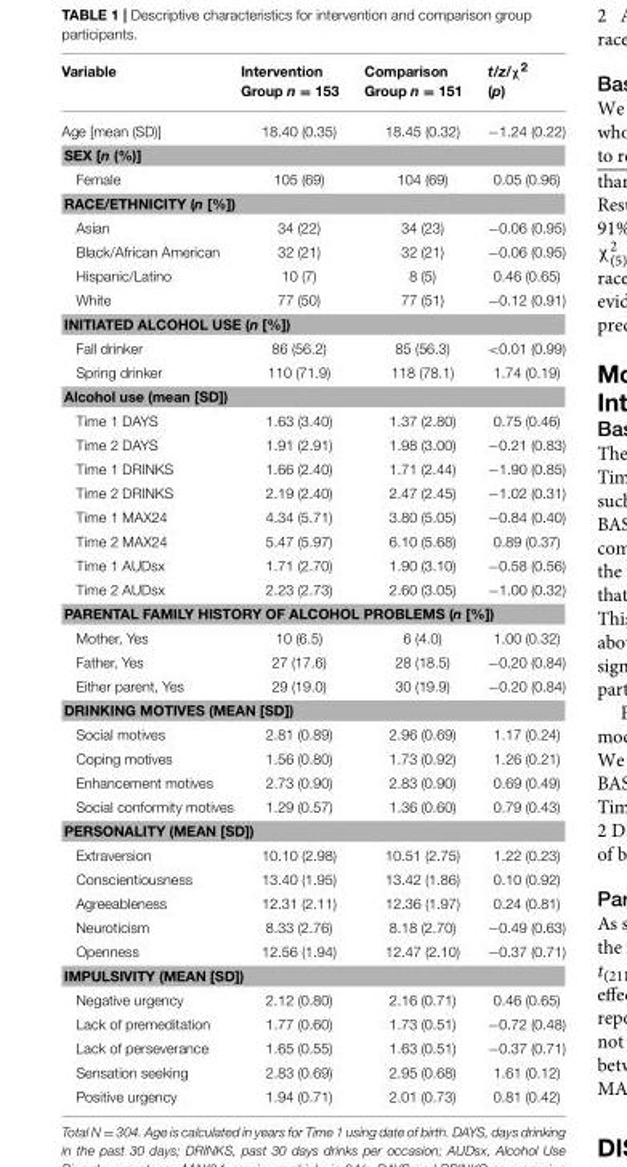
<table><thead><tr><td>Variable</td><td>Intervention Group n = 153</td><td>Comparison Group n = 151</td><td>t/z/χ<sup>2</sup> (p)</td></tr></thead><tbody><tr><td>Age [mean (SD)]</td><td>18.40 (0.35)</td><td>18.45 (0.32)</td><td>−1.24 (0.22)</td></tr><tr><td colspan="4">SEX [n (%)]</td></tr><tr><td>Female</td><td>105 (69)</td><td>104 (69)</td><td>0.05 (0.96)</td></tr><tr><td colspan="4">RACE/ETHNICITY (n [%])</td></tr><tr><td>Asian</td><td>34 (22)</td><td>34 (23)</td><td>−0.06 (0.95)</td></tr><tr><td>Black/African American</td><td>32 (21)</td><td>32 (21)</td><td>−0.06 (0.95)</td></tr><tr><td>Hispanic/Latino</td><td>10 (7)</td><td>8 (5)</td><td>0.46 (0.65)</td></tr><tr><td>White</td><td>77 (50)</td><td>77 (51)</td><td>−0.12 (0.91)</td></tr><tr><td colspan="4">INITIATED ALCOHOL USE (n [%])</td></tr><tr><td>Fall drinker</td><td>86 (56.2)</td><td>85 (56.3)</td><td>&lt;0.01 (0.99)</td></tr><tr><td>Spring drinker</td><td>110 (71.9)</td><td>118 (78.1)</td><td>1.74 (0.19)</td></tr><tr><td colspan="4">Alcohol use (mean [SD])</td></tr><tr><td>Time 1 DAYS</td><td>1.63 (3.40)</td><td>1.37 (2.80)</td><td>0.75 (0.46)</td></tr><tr><td>Time 2 DAYS</td><td>1.91 (2.91)</td><td>1.98 (3.00)</td><td>−0.21 (0.83)</td></tr><tr><td>Time 1 DRINKS</td><td>1.66 (2.40)</td><td>1.71 (2.44)</td><td>−1.90 (0.85)</td></tr><tr><td>Time 2 DRINKS</td><td>2.19 (2.40)</td><td>2.47 (2.45)</td><td>−1.02 (0.31)</td></tr><tr><td>Time 1 MAX24</td><td>4.34 (5.71)</td><td>3.80 (5.05)</td><td>−0.84 (0.40)</td></tr><tr><td>Time 2 MAX24</td><td>5.47 (5.97)</td><td>6.10 (5.68)</td><td>0.89 (0.37)</td></tr><tr><td>Time 1 AUDsx</td><td>1.71 (2.70)</td><td>1.90 (3.10)</td><td>−0.58 (0.56)</td></tr><tr><td>Time 2 AUDsx</td><td>2.23 (2.73)</td><td>2.60 (3.05)</td><td>−1.00 (0.32)</td></tr><tr><td colspan="4">PARENTAL FAMILY HISTORY OF ALCOHOL PROBLEMS (n [%])</td></tr><tr><td>Mother, Yes</td><td>10 (6.5)</td><td>6 (4.0)</td><td>1.00 (0.32)</td></tr><tr><td>Father, Yes</td><td>27 (17.6)</td><td>28 (18.5)</td><td>−0.20 (0.84)</td></tr><tr><td>Either parent, Yes</td><td>29 (19.0)</td><td>30 (19.9)</td><td>−0.20 (0.84)</td></tr><tr><td colspan="4">DRINKING MOTIVES (MEAN [SD])</td></tr><tr><td>Social motives</td><td>2.81 (0.89)</td><td>2.96 (0.69)</td><td>1.17 (0.24)</td></tr><tr><td>Coping motives</td><td>1.56 (0.80)</td><td>1.73 (0.92)</td><td>1.26 (0.21)</td></tr><tr><td>Enhancement motives</td><td>2.73 (0.90)</td><td>2.83 (0.90)</td><td>0.69 (0.49)</td></tr><tr><td>Social conformity motives</td><td>1.29 (0.57)</td><td>1.36 (0.60)</td><td>0.79 (0.43)</td></tr><tr><td colspan="4">PERSONALITY (MEAN [SD])</td></tr><tr><td>Extraversion</td><td>10.10 (2.98)</td><td>10.51 (2.75)</td><td>1.22 (0.23)</td></tr><tr><td>Conscientiousness</td><td>13.40 (1.95)</td><td>13.42 (1.86)</td><td>0.10 (0.92)</td></tr><tr><td>Agreeableness</td><td>12.31 (2.11)</td><td>12.36 (1.97)</td><td>0.24 (0.81)</td></tr><tr><td>Neuroticism</td><td>8.33 (2.76)</td><td>8.18 (2.70)</td><td>−0.49 (0.63)</td></tr><tr><td>Openness</td><td>12.56 (1.94)</td><td>12.47 (2.10)</td><td>−0.37 (0.71)</td></tr><tr><td colspan="4">IMPULSIVITY (MEAN [SD])</td></tr><tr><td>Negative urgency</td><td>2.12 (0.80)</td><td>2.16 (0.71)</td><td>0.46 (0.65)</td></tr><tr><td>Lack of premeditation</td><td>1.77 (0.60)</td><td>1.73 (0.51)</td><td>−0.72 (0.48)</td></tr><tr><td>Lack of perseverance</td><td>1.65 (0.55)</td><td>1.63 (0.51)</td><td>−0.37 (0.71)</td></tr><tr><td>Sensation seeking</td><td>2.83 (0.69)</td><td>2.95 (0.68)</td><td>1.61 (0.12)</td></tr><tr><td>Positive urgency</td><td>1.94 (0.71)</td><td>2.01 (0.73)</td><td>0.81 (0.42)</td></tr></tbody></table>